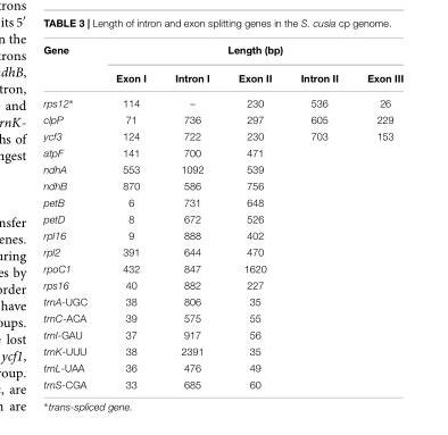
<table><thead><tr><td rowspan="2">Gene</td><td colspan="5">Length (bp)</td></tr><tr><td>Exon I</td><td>Intron I</td><td>Exon II</td><td>Intron II</td><td>Exon III</td></tr></thead><tbody><tr><td>rps12∗</td><td>114</td><td>–</td><td>230</td><td>536</td><td>26</td></tr><tr><td>clpP</td><td>71</td><td>736</td><td>297</td><td>605</td><td>229</td></tr><tr><td>ycf3</td><td>124</td><td>722</td><td>230</td><td>703</td><td>153</td></tr><tr><td>atpF</td><td>141</td><td>700</td><td>471</td><td></td><td></td></tr><tr><td>ndhA</td><td>553</td><td>1092</td><td>539</td><td></td><td></td></tr><tr><td>ndhB</td><td>870</td><td>586</td><td>756</td><td></td><td></td></tr><tr><td>petB</td><td>6</td><td>731</td><td>648</td><td></td><td></td></tr><tr><td>petD</td><td>8</td><td>672</td><td>526</td><td></td><td></td></tr><tr><td>rpl16</td><td>9</td><td>888</td><td>402</td><td></td><td></td></tr><tr><td>rpl2</td><td>391</td><td>644</td><td>470</td><td></td><td></td></tr><tr><td>rpoC1</td><td>432</td><td>847</td><td>1620</td><td></td><td></td></tr><tr><td>rps16</td><td>40</td><td>882</td><td>227</td><td></td><td></td></tr><tr><td>trnA-UGC</td><td>38</td><td>806</td><td>35</td><td></td><td></td></tr><tr><td>trnC-ACA</td><td>39</td><td>575</td><td>55</td><td></td><td></td></tr><tr><td>trnI-GAU</td><td>37</td><td>917</td><td>56</td><td></td><td></td></tr><tr><td>trnK-UUU</td><td>38</td><td>2391</td><td>35</td><td></td><td></td></tr><tr><td>trnL-UAA</td><td>36</td><td>476</td><td>49</td><td></td><td></td></tr><tr><td>trnS-CGA</td><td>33</td><td>685</td><td>60</td><td></td><td></td></tr></tbody></table>